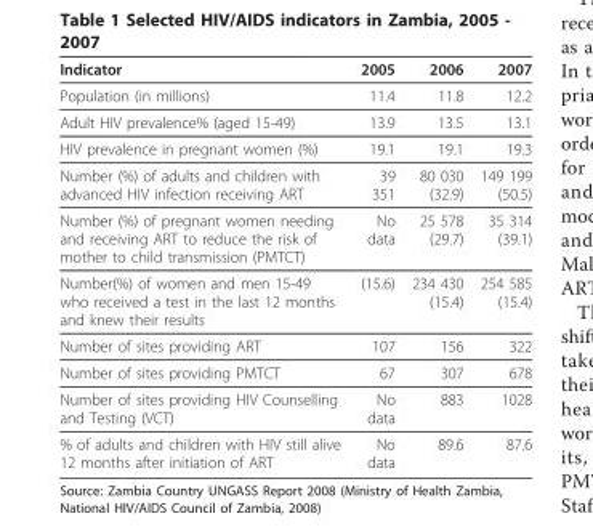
<table><thead><tr><td>Indicator</td><td>2005</td><td>2006</td><td>2007</td></tr></thead><tbody><tr><td>Population (in millions)</td><td>11.4</td><td>11.8</td><td>12.2</td></tr><tr><td>Adult HIV prevalence% (aged 15-49)</td><td>13.9</td><td>13.5</td><td>13.1</td></tr><tr><td>HIV prevalence in pregnant women (%)</td><td>19.1</td><td>19.1</td><td>19.3</td></tr><tr><td>Number (%) of adults and children with advanced HIV infection receiving ART</td><td>39 351</td><td>80 030 (32.9)</td><td>149 199 (50.5)</td></tr><tr><td>Number (%) of pregnant women needing and receiving ART to reduce the risk of mother to child transmission (PMTCT)</td><td>No data</td><td>25 578 (29.7)</td><td>35 314 (39.1)</td></tr><tr><td>Number(%) of women and men 15-49 who received a test in the last 12 months and knew their results</td><td>(15.6)</td><td>234 430 (15.4)</td><td>254 585 (15.4)</td></tr><tr><td>Number of sites providing ART</td><td>107</td><td>156</td><td>322</td></tr><tr><td>Number of sites providing PMTCT</td><td>67</td><td>307</td><td>678</td></tr><tr><td>Number of sites providing HIV Counselling and Testing (VCT)</td><td>No data</td><td>883</td><td>1028</td></tr><tr><td>% of adults and children with HIV still alive 12 months after initiation of ART</td><td>No data</td><td>89.6</td><td>87.6</td></tr></tbody></table>